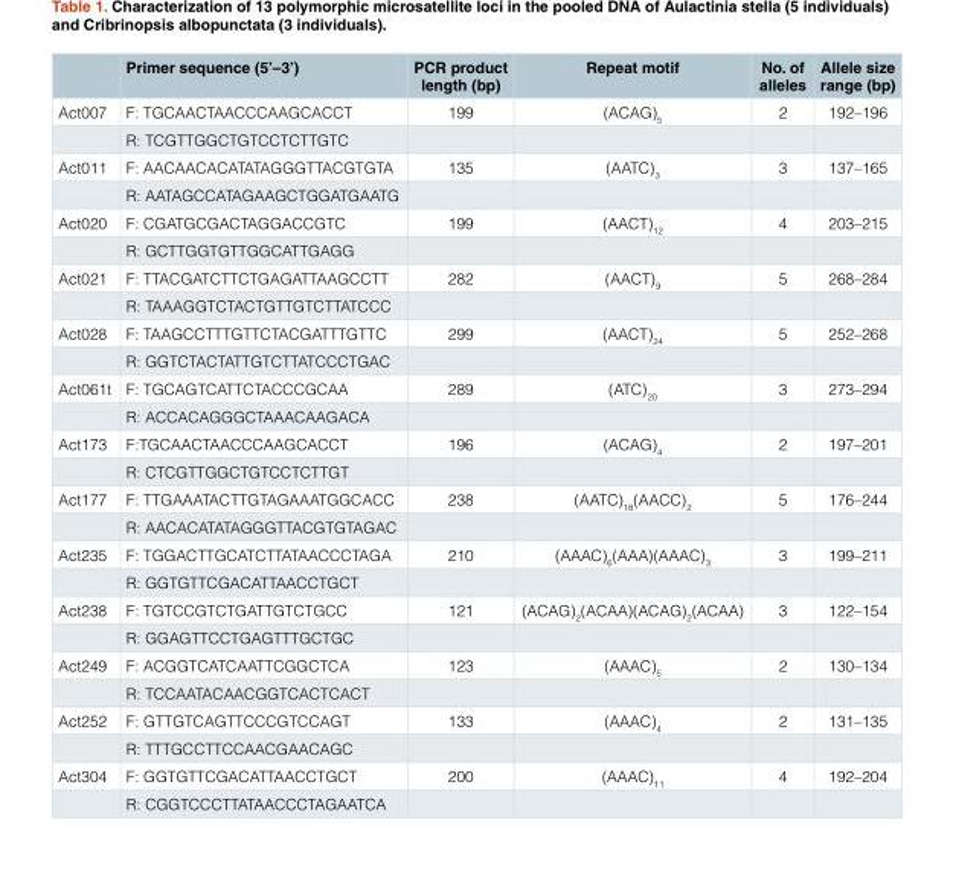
<table><thead><tr><td></td><td>Primer sequence (5’–3’)</td><td>PCR product length (bp)</td><td>Repeat motif</td><td>No. of alleles</td><td>Allele size range (bp)</td></tr></thead><tbody><tr><td rowspan="2">Act007</td><td>F: TGCAACTAACCCAAGCACCT</td><td>199</td><td>(ACAG)<sub>5</sub></td><td>2</td><td>192–196</td></tr><tr><td>R: TCGTTGGCTGTCCTCTTGTC</td><td></td><td></td><td></td><td></td></tr><tr><td rowspan="2">Act011</td><td>F: AACAACACATATAGGGTTACGTGTA</td><td>135</td><td>(AATC)<sub>3</sub></td><td>3</td><td>137–165</td></tr><tr><td>R: AATAGCCATAGAAGCTGGATGAATG</td><td></td><td></td><td></td><td></td></tr><tr><td rowspan="2">Act020</td><td>F: CGATGCGACTAGGACCGTC</td><td>199</td><td>(AACT)<sub>12</sub></td><td>4</td><td>203–215</td></tr><tr><td>R: GCTTGGTGTTGGCATTGAGG</td><td></td><td></td><td></td><td></td></tr><tr><td rowspan="2">Act021</td><td>F: TTACGATCTTCTGAGATTAAGCCTT</td><td>282</td><td>(AACT)<sub>9</sub></td><td>5</td><td>268–284</td></tr><tr><td>R: TAAAGGTCTACTGTTGTCTTATCCC</td><td></td><td></td><td></td><td></td></tr><tr><td rowspan="2">Act028</td><td>F: TAAGCCTTTGTTCTACGATTTGTTC</td><td>299</td><td>(AACT)<sub>24</sub></td><td>5</td><td>252–268</td></tr><tr><td>R: GGTCTACTATTGTCTTATCCCTGAC</td><td></td><td></td><td></td><td></td></tr><tr><td rowspan="2">Act061t</td><td>F: TGCAGTCATTCTACCCGCAA</td><td>289</td><td>(ATC)<sub>20</sub></td><td>3</td><td>273–294</td></tr><tr><td>R: ACCACAGGGCTAAACAAGACA</td><td></td><td></td><td></td><td></td></tr><tr><td rowspan="2">Act173</td><td>F:TGCAACTAACCCAAGCACCT</td><td>196</td><td>(ACAG)<sub>4</sub></td><td>2</td><td>197–201</td></tr><tr><td>R: CTCGTTGGCTGTCCTCTTGT</td><td></td><td></td><td></td><td></td></tr><tr><td rowspan="2">Act177</td><td>F: TTGAAATACTTGTAGAAATGGCACC</td><td>238</td><td>(AATC)<sub>18</sub>(AACC)<sub>2</sub></td><td>5</td><td>176–244</td></tr><tr><td>R: AACACATATAGGGTTACGTGTAGAC</td><td></td><td></td><td></td><td></td></tr><tr><td rowspan="2">Act235</td><td>F: TGGACTTGCATCTTATAACCCTAGA</td><td>210</td><td>(AAAC)<sub>6</sub>(AAA)(AAAC)<sub>3</sub></td><td>3</td><td>199–211</td></tr><tr><td>R: GGTGTTCGACATTAACCTGCT</td><td></td><td></td><td></td><td></td></tr><tr><td rowspan="2">Act238</td><td>F: TGTCCGTCTGATTGTCTGCC</td><td>121</td><td>(ACAG)<sub>2</sub>(ACAA)(ACAG)<sub>2</sub>(ACAA)</td><td>3</td><td>122–154</td></tr><tr><td>R: GGAGTTCCTGAGTTTGCTGC</td><td></td><td></td><td></td><td></td></tr><tr><td rowspan="2">Act249</td><td>F: ACGGTCATCAATTCGGCTCA</td><td>123</td><td>(AAAC)<sub>5</sub></td><td>2</td><td>130–134</td></tr><tr><td>R: TCCAATACAACGGTCACTCACT</td><td></td><td></td><td></td><td></td></tr><tr><td rowspan="2">Act252</td><td>F: GTTGTCAGTTCCCGTCCAGT</td><td>133</td><td>(AAAC)<sub>4</sub></td><td>2</td><td>131–135</td></tr><tr><td>R: TTTGCCTTCCAACGAACAGC</td><td></td><td></td><td></td><td></td></tr><tr><td rowspan="2">Act304</td><td>F: GGTGTTCGACATTAACCTGCT</td><td>200</td><td>(AAAC)<sub>11</sub></td><td>4</td><td>192–204</td></tr><tr><td>R: CGGTCCCTTATAACCCTAGAATCA</td><td></td><td></td><td></td><td></td></tr></tbody></table>